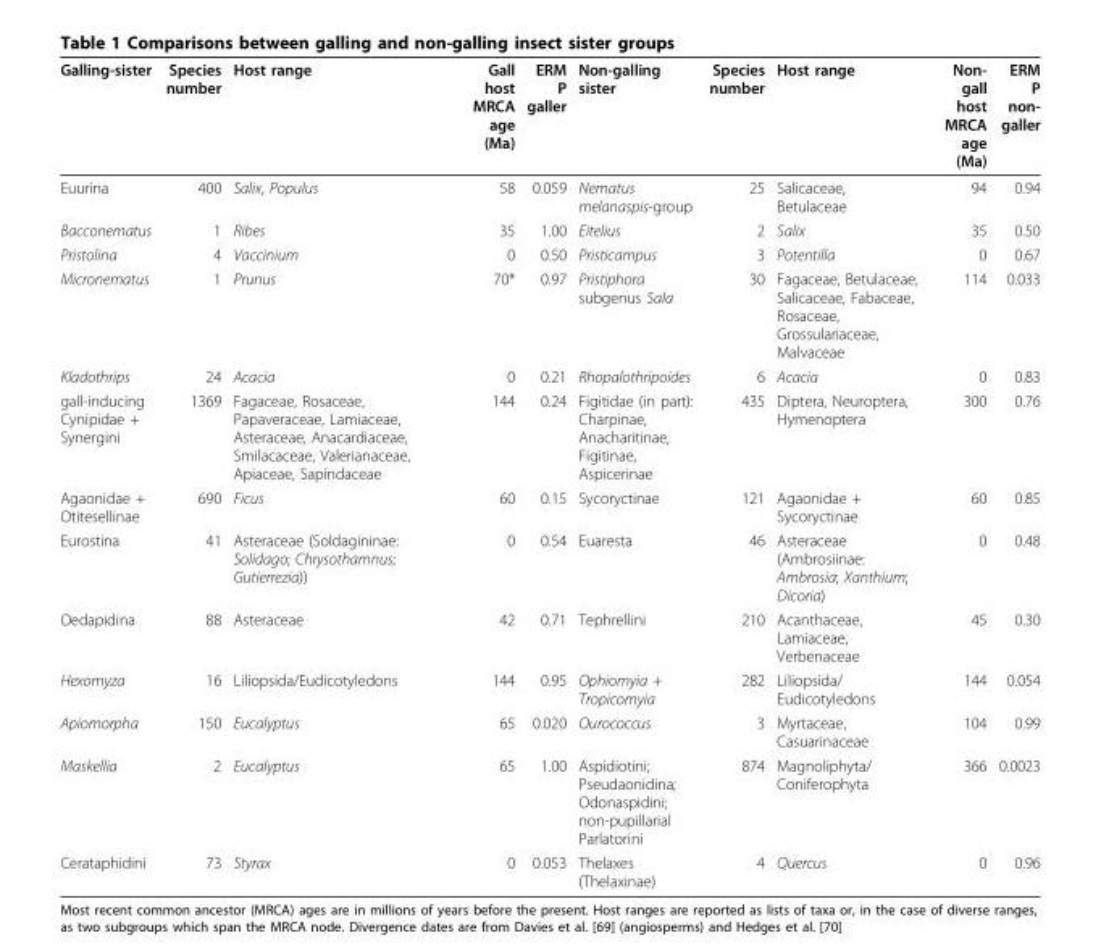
<table><thead><tr><td>Galling-sister</td><td>Species number</td><td>Host range</td><td>Gall host MRCA age (Ma)</td><td>ERM P galler</td><td>Non-galling sister</td><td>Species number</td><td>Host range</td><td>Non- gall host MRCA age (Ma)</td><td>ERM P non- galler</td></tr></thead><tbody><tr><td>Euurina</td><td>400</td><td>Salix, Populus</td><td>58</td><td>0.059</td><td>Nematus melanaspis-group</td><td>25</td><td>Salicaceae, Betulaceae</td><td>94</td><td>0.94</td></tr><tr><td>Bacconematus</td><td>1</td><td>Ribes</td><td>35</td><td>1.00</td><td>Eitelius</td><td>2</td><td>Salix</td><td>35</td><td>0.50</td></tr><tr><td>Pristolina</td><td>4</td><td>Vaccinium</td><td>0</td><td>0.50</td><td>Pristicampus</td><td>3</td><td>Potentilla</td><td>0</td><td>0.67</td></tr><tr><td>Micronematus</td><td>1</td><td>Prunus</td><td>70*</td><td>0.97</td><td>Pristiphora subgenus Sala</td><td>30</td><td>Fagaceae, Betulaceae, Salicaceae, Fabaceae, Rosaceae, Grossulariaceae, Malvaceae</td><td>114</td><td>0.033</td></tr><tr><td>Kladothrips</td><td>24</td><td>Acacia</td><td>0</td><td>0.21</td><td>Rhopalothripoides</td><td>6</td><td>Acacia</td><td>0</td><td>0.83</td></tr><tr><td>gall-inducing Cynipidae + Synergini</td><td>1369</td><td>Fagaceae, Rosaceae, Papaveraceae, Lamiaceae, Asteraceae, Anacardiaceae, Smilacaceae, Valerianaceae, Apiaceae, Sapindaceae</td><td>144</td><td>0.24</td><td>Figitidae (in part): Charpinae, Anacharitinae, Figitinae, Aspicerinae</td><td>435</td><td>Diptera, Neuroptera, Hymenoptera</td><td>300</td><td>0.76</td></tr><tr><td>Agaonidae + Otitesellinae</td><td>690</td><td>Ficus</td><td>60</td><td>0.15</td><td>Sycoryctinae</td><td>121</td><td>Agaonidae + Sycoryctinae</td><td>60</td><td>0.85</td></tr><tr><td>Eurostina</td><td>41</td><td>Asteraceae (Soldagininae: Solidago; Chrysothamnus; Gutierrezia))</td><td>0</td><td>0.54</td><td>Euaresta</td><td>46</td><td>Asteraceae (Ambrosiinae: Ambrosia; Xanthium; Dicoria)</td><td>0</td><td>0.48</td></tr><tr><td>Oedapidina</td><td>88</td><td>Asteraceae</td><td>42</td><td>0.71</td><td>Tephrellini</td><td>210</td><td>Acanthaceae, Lamiaceae, Verbenaceae</td><td>45</td><td>0.30</td></tr><tr><td>Hexomyza</td><td>16</td><td>Liliopsida/Eudicotyledons</td><td>144</td><td>0.95</td><td>Ophiomyia + Tropicomyia</td><td>282</td><td>Liliopsida/ Eudicotyledons</td><td>144</td><td>0.054</td></tr><tr><td>Apiomorpha</td><td>150</td><td>Eucalyptus</td><td>65</td><td>0.020</td><td>Ourococcus</td><td>3</td><td>Myrtaceae, Casuarinaceae</td><td>104</td><td>0.99</td></tr><tr><td>Maskellia</td><td>2</td><td>Eucalyptus</td><td>65</td><td>1.00</td><td>Aspidiotini; Pseudaonidina; Odonaspidini; non-pupillarial Parlatorini</td><td>874</td><td>Magnoliphyta/ Coniferophyta</td><td>366</td><td>0.0023</td></tr><tr><td>Cerataphidini</td><td>73</td><td>Styrax</td><td>0</td><td>0.053</td><td>Thelaxes (Thelaxinae)</td><td>4</td><td>Quercus</td><td>0</td><td>0.96</td></tr></tbody></table>